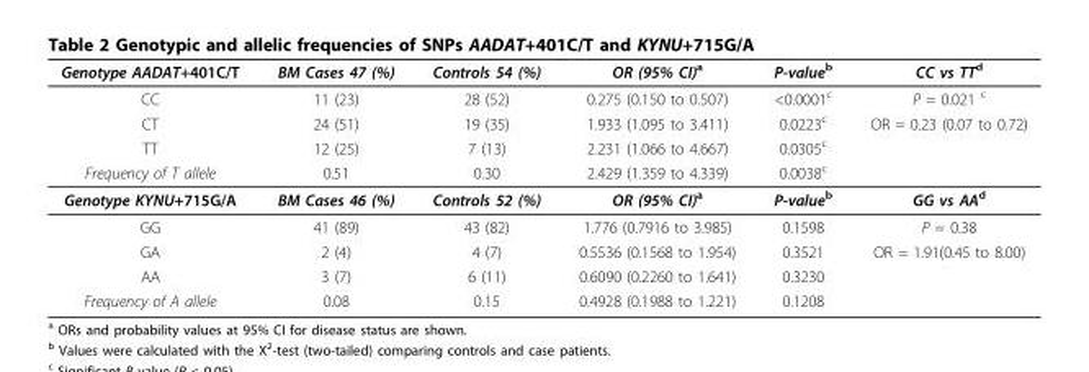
<table><thead><tr><td>Genotype AADAT+401C/T</td><td>BM Cases 47 (%)</td><td>Controls 54 (%)</td><td>OR (95% CI)<sup>a</sup></td><td>P-value<sup>b</sup></td><td>CC vs TT<sup>d</sup></td></tr></thead><tbody><tr><td>CC</td><td>11 (23)</td><td>28 (52)</td><td>0.275 (0.150 to 0.507)</td><td>&lt;0.0001<sup>c</sup></td><td>P = 0.021 <sup>c</sup></td></tr><tr><td>CT</td><td>24 (51)</td><td>19 (35)</td><td>1.933 (1.095 to 3.411)</td><td>0.0223<sup>c</sup></td><td>OR = 0.23 (0.07 to 0.72)</td></tr><tr><td>TT</td><td>12 (25)</td><td>7 (13)</td><td>2.231 (1.066 to 4.667)</td><td>0.0305<sup>c</sup></td><td></td></tr><tr><td>Frequency of T allele</td><td>0.51</td><td>0.30</td><td>2.429 (1.359 to 4.339)</td><td>0.0038<sup>c</sup></td><td></td></tr><tr><td>Genotype KYNU+715G/A</td><td>BM Cases 46 (%)</td><td>Controls 52 (%)</td><td>OR (95% CI)<sup>a</sup></td><td>P-value<sup>b</sup></td><td>GG vs AA<sup>d</sup></td></tr><tr><td>GG</td><td>41 (89)</td><td>43 (82)</td><td>1.776 (0.7916 to 3.985)</td><td>0.1598</td><td>P = 0.38</td></tr><tr><td>GA</td><td>2 (4)</td><td>4 (7)</td><td>0.5536 (0.1568 to 1.954)</td><td>0.3521</td><td>OR = 1.91(0.45 to 8.00)</td></tr><tr><td>AA</td><td>3 (7)</td><td>6 (11)</td><td>0.6090 (0.2260 to 1.641)</td><td>0.3230</td><td></td></tr><tr><td>Frequency of A allele</td><td>0.08</td><td>0.15</td><td>0.4928 (0.1988 to 1.221)</td><td>0.1208</td><td></td></tr></tbody></table>